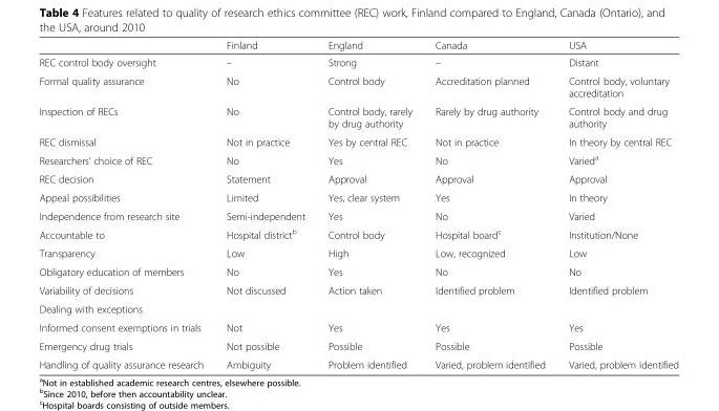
<table><thead><tr><td></td><td>Finland</td><td>England</td><td>Canada</td><td>USA</td></tr></thead><tbody><tr><td>REC control body oversight</td><td>–</td><td>Strong</td><td>–</td><td>Distant</td></tr><tr><td>Formal quality assurance</td><td>No</td><td>Control body</td><td>Accreditation planned</td><td>Control body, voluntary accreditation</td></tr><tr><td>Inspection of RECs</td><td>No</td><td>Control body, rarely by drug authority</td><td>Rarely by drug authority</td><td>Control body and drug authority</td></tr><tr><td>REC dismissal</td><td>Not in practice</td><td>Yes by central REC</td><td>Not in practice</td><td>In theory by central REC</td></tr><tr><td>Researchers’ choice of REC</td><td>No</td><td>Yes</td><td>No</td><td>Varied<sup>a</sup></td></tr><tr><td>REC decision</td><td>Statement</td><td>Approval</td><td>Approval</td><td>Approval</td></tr><tr><td>Appeal possibilities</td><td>Limited</td><td>Yes, clear system</td><td>Yes</td><td>In theory</td></tr><tr><td>Independence from research site</td><td>Semi-independent</td><td>Yes</td><td>No</td><td>Varied</td></tr><tr><td>Accountable to</td><td>Hospital district<sup>b</sup></td><td>Control body</td><td>Hospital board<sup>c</sup></td><td>Institution/None</td></tr><tr><td>Transparency</td><td>Low</td><td>High</td><td>Low, recognized</td><td>Low</td></tr><tr><td>Obligatory education of members</td><td>No</td><td>Yes</td><td>No</td><td>No</td></tr><tr><td>Variability of decisions</td><td>Not discussed</td><td>Action taken</td><td>Identified problem</td><td>Identified problem</td></tr><tr><td colspan="5">Dealing with exceptions</td></tr><tr><td>Informed consent exemptions in trials</td><td>Not</td><td>Yes</td><td>Yes</td><td>Yes</td></tr><tr><td>Emergency drug trials</td><td>Not possible</td><td>Possible</td><td>Possible</td><td>Possible</td></tr><tr><td>Handling of quality assurance research</td><td>Ambiguity</td><td>Problem identified</td><td>Varied, problem identified</td><td>Varied, problem identified</td></tr></tbody></table>